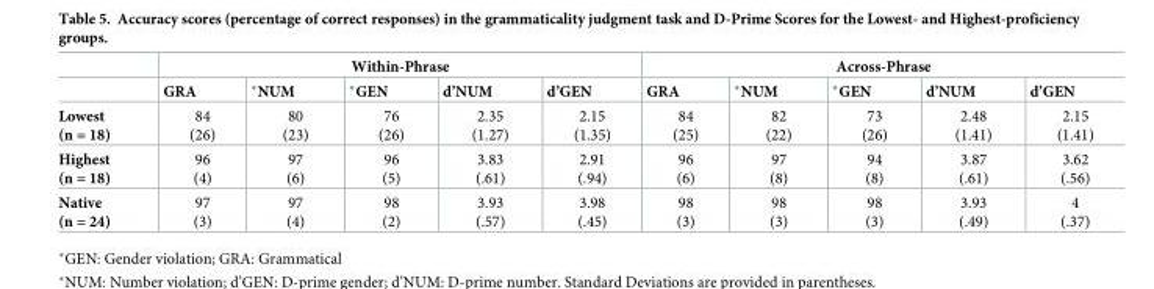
<table><thead><tr><td rowspan="2"></td><td colspan="5">Within-Phrase</td><td colspan="5">Across-Phrase</td></tr><tr><td>GRA</td><td>*NUM</td><td>*GEN</td><td>d’NUM</td><td>d’GEN</td><td>GRA</td><td>*NUM</td><td>*GEN</td><td>d’NUM</td><td>d’GEN</td></tr></thead><tbody><tr><td>Lowest (n = 18)</td><td>84 (26)</td><td>80 (23)</td><td>76 (26)</td><td>2.35 (1.27)</td><td>2.15 (1.35)</td><td>84 (25)</td><td>82 (22)</td><td>73 (26)</td><td>2.48 (1.41)</td><td>2.15 (1.41)</td></tr><tr><td>Highest (n = 18)</td><td>96 (4)</td><td>97 (6)</td><td>96 (5)</td><td>3.83 (.61)</td><td>2.91 (.94)</td><td>96 (6)</td><td>97 (8)</td><td>94 (8)</td><td>3.87 (.61)</td><td>3.62 (.56)</td></tr><tr><td>Native (n = 24)</td><td>97 (3)</td><td>97 (4)</td><td>98 (2)</td><td>3.93 (.57)</td><td>3.98 (.45)</td><td>98 (3)</td><td>98 (3)</td><td>98 (3)</td><td>3.93 (.49)</td><td>4 (.37)</td></tr></tbody></table>